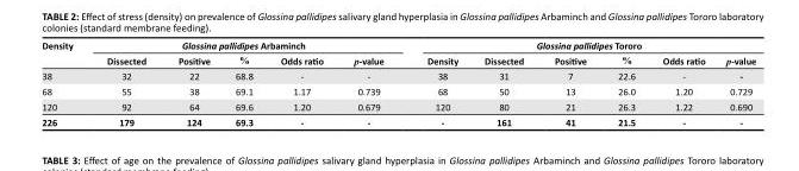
<table><thead><tr><td rowspan="2">Density</td><td colspan="5">Glossina pallidipes Arbaminch</td><td colspan="6">Glossina pallidipes Tororo</td></tr><tr><td>Dissected</td><td>Positive</td><td>%</td><td>Odds ratio</td><td>p-value</td><td>Density</td><td>Dissected</td><td>Positive</td><td>%</td><td>Odds ratio</td><td>p-value</td></tr></thead><tbody><tr><td>38</td><td>32</td><td>22</td><td>68.8</td><td>-</td><td>-</td><td>38</td><td>31</td><td>7</td><td>22.6</td><td>-</td><td>-</td></tr><tr><td>68</td><td>55</td><td>38</td><td>69.1</td><td>1.17</td><td>0.739</td><td>68</td><td>50</td><td>13</td><td>26.0</td><td>1.20</td><td>0.729</td></tr><tr><td>120</td><td>92</td><td>64</td><td>69.6</td><td>1.20</td><td>0.679</td><td>120</td><td>80</td><td>21</td><td>26.3</td><td>1.22</td><td>0.690</td></tr><tr><td>226</td><td>179</td><td>124</td><td>69.3</td><td>-</td><td>-</td><td>-</td><td>161</td><td>41</td><td>21.5</td><td>-</td><td>-</td></tr></tbody></table>